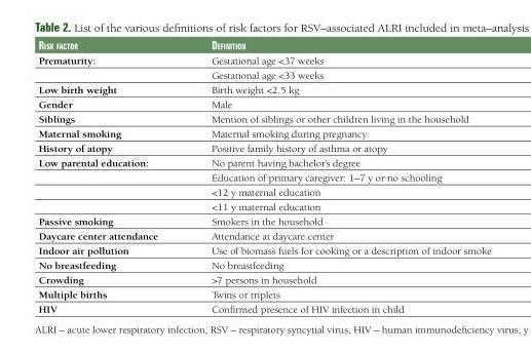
<table><thead><tr><td>Risk factoR</td><td>Definition</td></tr></thead><tbody><tr><td rowspan="2">Prematurity:</td><td>Gestational age &lt;37 weeks</td></tr><tr><td>Gestational age &lt;33 weeks</td></tr><tr><td>Low birth weight</td><td>Birth weight &lt;2.5 kg</td></tr><tr><td>Gender</td><td>Male</td></tr><tr><td>Siblings</td><td>Mention of siblings or other children living in the household</td></tr><tr><td>Maternal smoking</td><td>Maternal smoking during pregnancy</td></tr><tr><td>History of atopy</td><td>Positive family history of asthma or atopy</td></tr><tr><td rowspan="4">Low parental education:</td><td>No parent having bachelor’s degree</td></tr><tr><td>Education of primary caregiver: 1–7 y or no schooling</td></tr><tr><td>&lt;12 y maternal education</td></tr><tr><td>&lt;11 y maternal education</td></tr><tr><td>Passive smoking</td><td>Smokers in the household</td></tr><tr><td>Daycare center attendance</td><td>Attendance at daycare center</td></tr><tr><td>Indoor air pollution</td><td>Use of biomass fuels for cooking or a description of indoor smoke</td></tr><tr><td>No breastfeeding</td><td>No breastfeeding</td></tr><tr><td>Crowding</td><td>&gt;7 persons in household</td></tr><tr><td>Multiple births</td><td>Twins or triplets</td></tr><tr><td>HIV</td><td>Confirmed presence of HIV infection in child</td></tr></tbody></table>